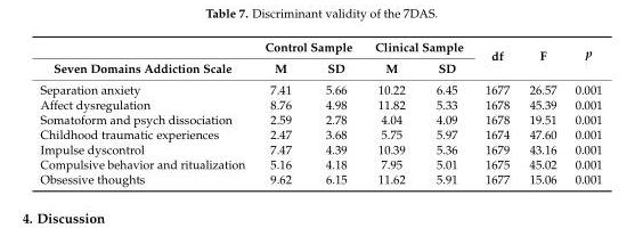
<table><thead><tr><td rowspan="2">Seven Domains Addiction Scale</td><td colspan="2">Control Sample</td><td colspan="2">Clinical Sample</td><td rowspan="2">df</td><td rowspan="2">F</td><td rowspan="2">p</td></tr><tr><td>M</td><td>SD</td><td>M</td><td>SD</td></tr></thead><tbody><tr><td>Separation anxiety</td><td>7.41</td><td>5.66</td><td>10.22</td><td>6.45</td><td>1677</td><td>26.57</td><td>0.001</td></tr><tr><td>Affect dysregulation</td><td>8.76</td><td>4.98</td><td>11.82</td><td>5.33</td><td>1678</td><td>45.39</td><td>0.001</td></tr><tr><td>Somatoform and psych dissociation</td><td>2.59</td><td>2.78</td><td>4.04</td><td>4.09</td><td>1678</td><td>19.51</td><td>0.001</td></tr><tr><td>Childhood traumatic experiences</td><td>2.47</td><td>3.68</td><td>5.75</td><td>5.97</td><td>1674</td><td>47.60</td><td>0.001</td></tr><tr><td>Impulse dyscontrol</td><td>7.47</td><td>4.39</td><td>10.39</td><td>5.36</td><td>1679</td><td>43.16</td><td>0.001</td></tr><tr><td>Compulsive behavior and ritualization</td><td>5.16</td><td>4.18</td><td>7.95</td><td>5.01</td><td>1675</td><td>45.02</td><td>0.001</td></tr><tr><td>Obsessive thoughts</td><td>9.62</td><td>6.15</td><td>11.62</td><td>5.91</td><td>1677</td><td>15.06</td><td>0.001</td></tr></tbody></table>